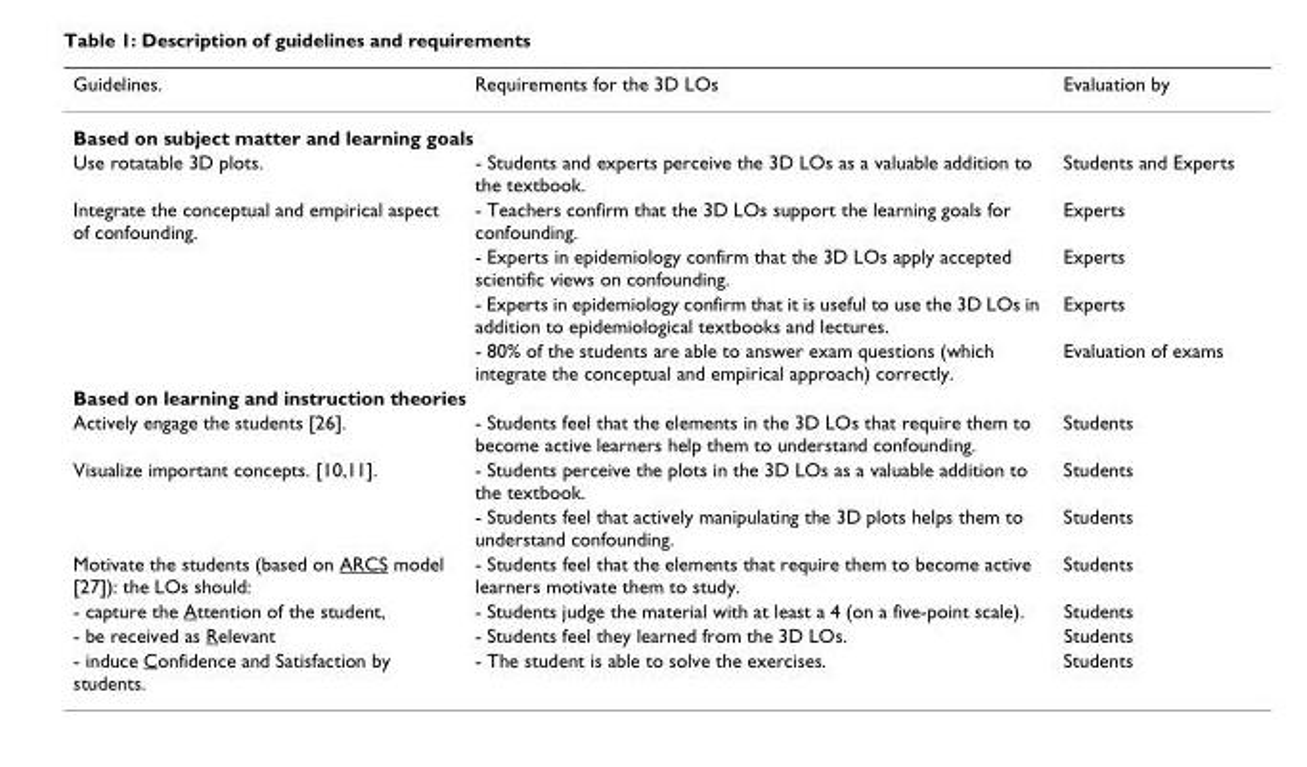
<table><thead><tr><td>Guidelines.</td><td>Requirements for the 3D LOs</td><td>Evaluation by</td></tr></thead><tbody><tr><td colspan="3">Based on subject matter and learning goals</td></tr><tr><td>Use rotatable 3D plots.</td><td>- Students and experts perceive the 3D LOs as a valuable addition to the textbook.</td><td>Students and Experts</td></tr><tr><td rowspan="4">Integrate the conceptual and empirical aspect of confounding.</td><td>- Teachers confirm that the 3D LOs support the learning goals for confounding.</td><td>Experts</td></tr><tr><td>- Experts in epidemiology confirm that the 3D LOs apply accepted scientific views on confounding.</td><td>Experts</td></tr><tr><td>- Experts in epidemiology confirm that it is useful to use the 3D LOs in addition to epidemiological textbooks and lectures.</td><td>Experts</td></tr><tr><td>- 80% of the students are able to answer exam questions (which integrate the conceptual and empirical approach) correctly.</td><td>Evaluation of exams</td></tr><tr><td colspan="3">Based on learning and instruction theories</td></tr><tr><td>Actively engage the students [26].</td><td>- Students feel that the elements in the 3D LOs that require them to become active learners help them to understand confounding.</td><td>Students</td></tr><tr><td rowspan="2">Visualize important concepts. [10,11].</td><td>- Students perceive the plots in the 3D LOs as a valuable addition to the textbook.</td><td>Students</td></tr><tr><td>- Students feel that actively manipulating the 3D plots helps them to understand confounding.</td><td>Students</td></tr><tr><td>Motivate the students (based on ARCS model [27]): the LOs should:</td><td>- Students feel that the elements that require them to become active learners motivate them to study.</td><td>Students</td></tr><tr><td>- capture the Attention of the student,</td><td>- Students judge the material with at least a 4 (on a five-point scale).</td><td>Students</td></tr><tr><td>- be received as Relevant</td><td>- Students feel they learned from the 3D LOs.</td><td>Students</td></tr><tr><td>- induce Confidence and Satisfaction by students.</td><td>- The student is able to solve the exercises.</td><td>Students</td></tr></tbody></table>